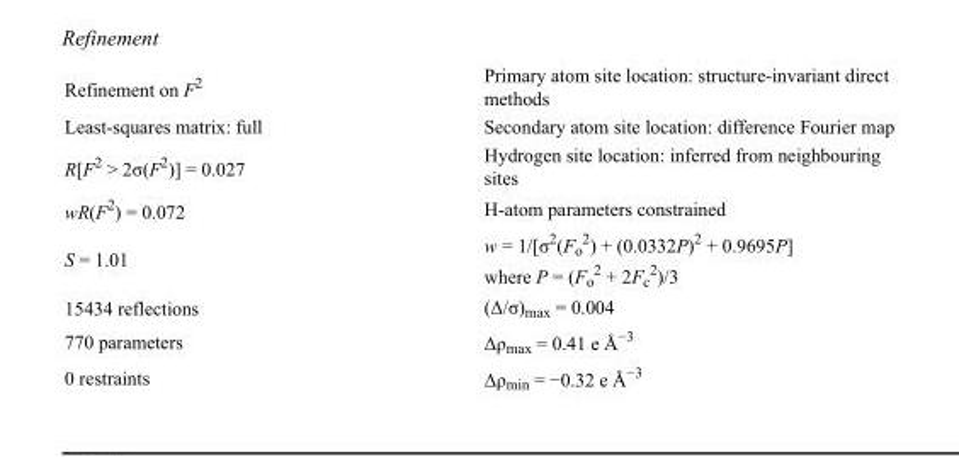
<table><tbody><tr><td>Refinement on F<sup>2</sup></td><td>Primary atom site location: structure-invariant direct methods</td></tr><tr><td>Least-squares matrix: full</td><td>Secondary atom site location: difference Fourier map</td></tr><tr><td>R[F<sup>2</sup> &gt; 2σ(F<sup>2</sup>)] = 0.027</td><td>Hydrogen site location: inferred from neighbouring sites</td></tr><tr><td>wR(F<sup>2</sup>) = 0.072</td><td>H-atom parameters constrained</td></tr><tr><td>S = 1.01</td><td>w = 1/[σ<sup>2</sup>(F<sub>o</sub> <sup>2</sup>) + (0.0332P)<sup>2</sup> + 0.9695P] where P = (F<sub>o</sub> <sup>2</sup> + 2F<sub>c</sub> <sup>2</sup>)/3</td></tr><tr><td>15434 reflections</td><td>(Δ/σ)<sub>max</sub> = 0.004</td></tr><tr><td>770 parameters</td><td>Δρ<sub>max</sub> = 0.41 e Å<sup>−3</sup></td></tr><tr><td>0 restraints</td><td>Δρ<sub>min</sub> = −0.32 e Å<sup>−3</sup></td></tr></tbody></table>